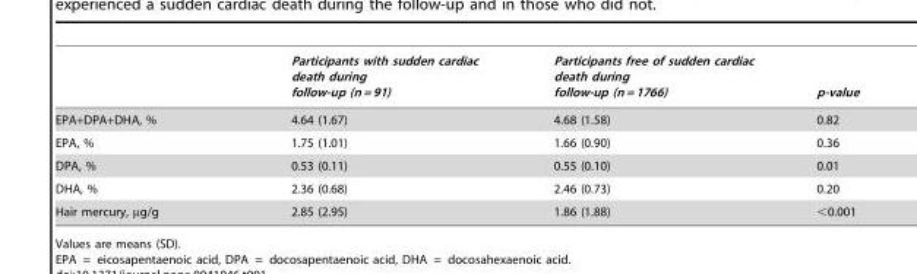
<table><thead><tr><td></td><td>Participants with sudden cardiac death during follow-up (n = 91)</td><td>Participants free of sudden cardiac death during follow-up (n = 1766)</td><td>p-value</td></tr></thead><tbody><tr><td>EPA+DPA+DHA, %</td><td>4.64 (1.67)</td><td>4.68 (1.58)</td><td>0.82</td></tr><tr><td>EPA, %</td><td>1.75 (1.01)</td><td>1.66 (0.90)</td><td>0.36</td></tr><tr><td>DPA, %</td><td>0.53 (0.11)</td><td>0.55 (0.10)</td><td>0.01</td></tr><tr><td>DHA, %</td><td>2.36 (0.68)</td><td>2.46 (0.73)</td><td>0.20</td></tr><tr><td>Hair mercury, µg/g</td><td>2.85 (2.95)</td><td>1.86 (1.88)</td><td>&lt;0.001</td></tr></tbody></table>